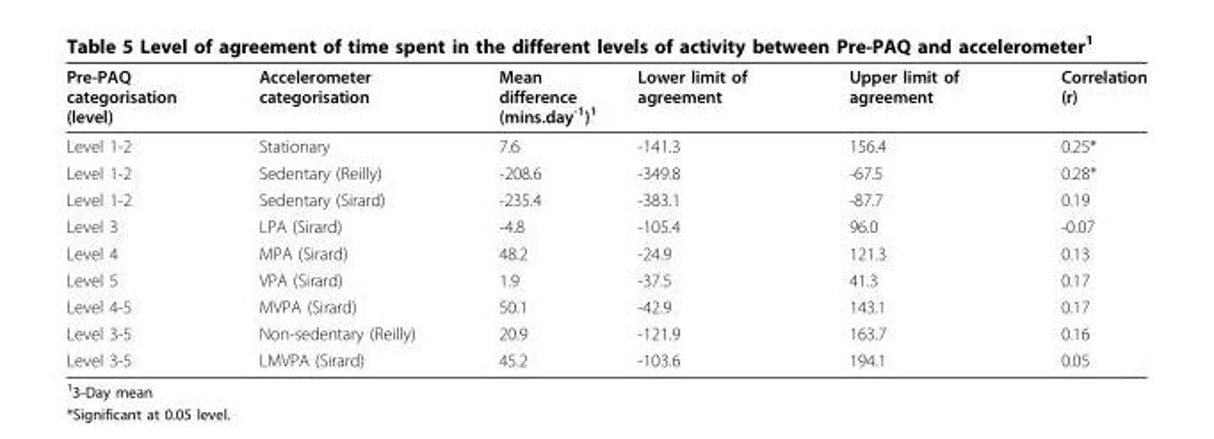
<table><thead><tr><td>Pre-PAQ categorisation (level)</td><td>Accelerometer categorisation</td><td>Mean difference (mins.day<sup>-1</sup>)<sup>1</sup></td><td>Lower limit of agreement</td><td>Upper limit of agreement</td><td>Correlation (r)</td></tr></thead><tbody><tr><td>Level 1-2</td><td>Stationary</td><td>7.6</td><td>-141.3</td><td>156.4</td><td>0.25*</td></tr><tr><td>Level 1-2</td><td>Sedentary (Reilly)</td><td>-208.6</td><td>-349.8</td><td>-67.5</td><td>0.28*</td></tr><tr><td>Level 1-2</td><td>Sedentary (Sirard)</td><td>-235.4</td><td>-383.1</td><td>-87.7</td><td>0.19</td></tr><tr><td>Level 3</td><td>LPA (Sirard)</td><td>-4.8</td><td>-105.4</td><td>96.0</td><td>-0.07</td></tr><tr><td>Level 4</td><td>MPA (Sirard)</td><td>48.2</td><td>-24.9</td><td>121.3</td><td>0.13</td></tr><tr><td>Level 5</td><td>VPA (Sirard)</td><td>1.9</td><td>-37.5</td><td>41.3</td><td>0.17</td></tr><tr><td>Level 4-5</td><td>MVPA (Sirard)</td><td>50.1</td><td>-42.9</td><td>143.1</td><td>0.17</td></tr><tr><td>Level 3-5</td><td>Non-sedentary (Reilly)</td><td>20.9</td><td>-121.9</td><td>163.7</td><td>0.16</td></tr><tr><td>Level 3-5</td><td>LMVPA (Sirard)</td><td>45.2</td><td>-103.6</td><td>194.1</td><td>0.05</td></tr></tbody></table>